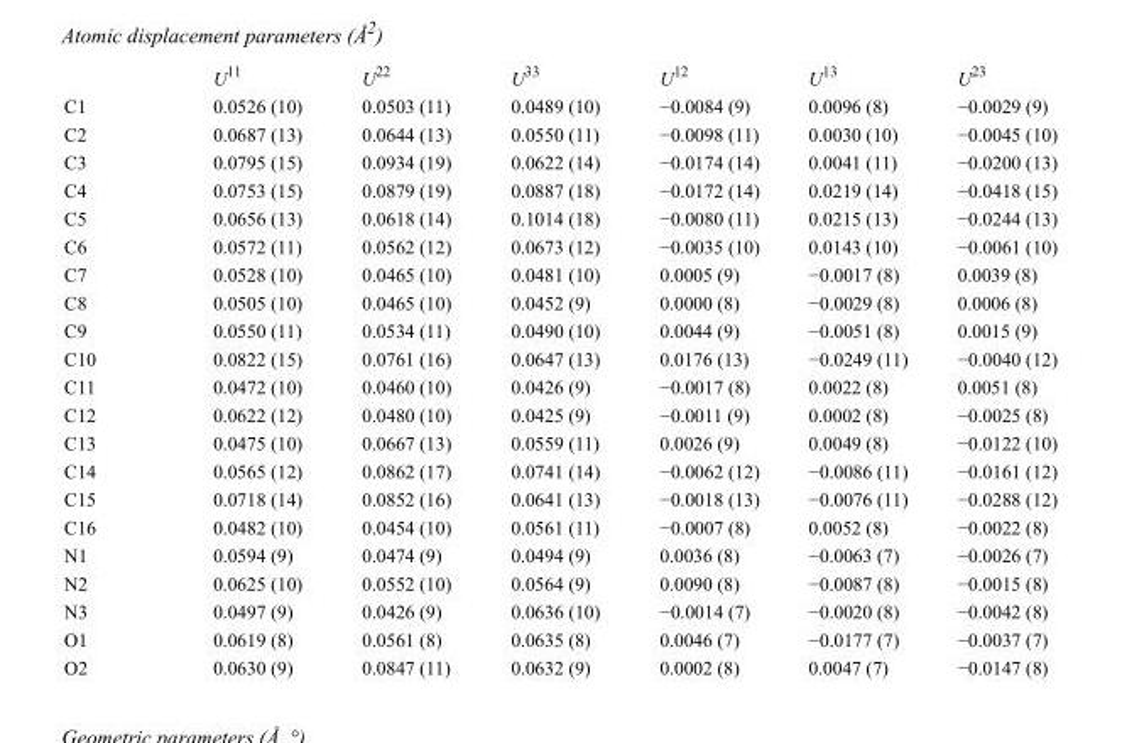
<table><thead><tr><td></td><td>U<sup>11</sup></td><td>U<sup>22</sup></td><td>U<sup>33</sup></td><td>U<sup>12</sup></td><td>U<sup>13</sup></td><td>U<sup>23</sup></td></tr></thead><tbody><tr><td>C1</td><td>0.0526 (10)</td><td>0.0503 (11)</td><td>0.0489 (10)</td><td>−0.0084 (9)</td><td>0.0096 (8)</td><td>−0.0029 (9)</td></tr><tr><td>C2</td><td>0.0687 (13)</td><td>0.0644 (13)</td><td>0.0550 (11)</td><td>−0.0098 (11)</td><td>0.0030 (10)</td><td>−0.0045 (10)</td></tr><tr><td>C3</td><td>0.0795 (15)</td><td>0.0934 (19)</td><td>0.0622 (14)</td><td>−0.0174 (14)</td><td>0.0041 (11)</td><td>−0.0200 (13)</td></tr><tr><td>C4</td><td>0.0753 (15)</td><td>0.0879 (19)</td><td>0.0887 (18)</td><td>−0.0172 (14)</td><td>0.0219 (14)</td><td>−0.0418 (15)</td></tr><tr><td>C5</td><td>0.0656 (13)</td><td>0.0618 (14)</td><td>0.1014 (18)</td><td>−0.0080 (11)</td><td>0.0215 (13)</td><td>−0.0244 (13)</td></tr><tr><td>C6</td><td>0.0572 (11)</td><td>0.0562 (12)</td><td>0.0673 (12)</td><td>−0.0035 (10)</td><td>0.0143 (10)</td><td>−0.0061 (10)</td></tr><tr><td>C7</td><td>0.0528 (10)</td><td>0.0465 (10)</td><td>0.0481 (10)</td><td>0.0005 (9)</td><td>−0.0017 (8)</td><td>0.0039 (8)</td></tr><tr><td>C8</td><td>0.0505 (10)</td><td>0.0465 (10)</td><td>0.0452 (9)</td><td>0.0000 (8)</td><td>−0.0029 (8)</td><td>0.0006 (8)</td></tr><tr><td>C9</td><td>0.0550 (11)</td><td>0.0534 (11)</td><td>0.0490 (10)</td><td>0.0044 (9)</td><td>−0.0051 (8)</td><td>0.0015 (9)</td></tr><tr><td>C10</td><td>0.0822 (15)</td><td>0.0761 (16)</td><td>0.0647 (13)</td><td>0.0176 (13)</td><td>−0.0249 (11)</td><td>−0.0040 (12)</td></tr><tr><td>C11</td><td>0.0472 (10)</td><td>0.0460 (10)</td><td>0.0426 (9)</td><td>−0.0017 (8)</td><td>0.0022 (8)</td><td>0.0051 (8)</td></tr><tr><td>C12</td><td>0.0622 (12)</td><td>0.0480 (10)</td><td>0.0425 (9)</td><td>−0.0011 (9)</td><td>0.0002 (8)</td><td>−0.0025 (8)</td></tr><tr><td>C13</td><td>0.0475 (10)</td><td>0.0667 (13)</td><td>0.0559 (11)</td><td>0.0026 (9)</td><td>0.0049 (8)</td><td>−0.0122 (10)</td></tr><tr><td>C14</td><td>0.0565 (12)</td><td>0.0862 (17)</td><td>0.0741 (14)</td><td>−0.0062 (12)</td><td>−0.0086 (11)</td><td>−0.0161 (12)</td></tr><tr><td>C15</td><td>0.0718 (14)</td><td>0.0852 (16)</td><td>0.0641 (13)</td><td>−0.0018 (13)</td><td>−0.0076 (11)</td><td>−0.0288 (12)</td></tr><tr><td>C16</td><td>0.0482 (10)</td><td>0.0454 (10)</td><td>0.0561 (11)</td><td>−0.0007 (8)</td><td>0.0052 (8)</td><td>−0.0022 (8)</td></tr><tr><td>N1</td><td>0.0594 (9)</td><td>0.0474 (9)</td><td>0.0494 (9)</td><td>0.0036 (8)</td><td>−0.0063 (7)</td><td>−0.0026 (7)</td></tr><tr><td>N2</td><td>0.0625 (10)</td><td>0.0552 (10)</td><td>0.0564 (9)</td><td>0.0090 (8)</td><td>−0.0087 (8)</td><td>−0.0015 (8)</td></tr><tr><td>N3</td><td>0.0497 (9)</td><td>0.0426 (9)</td><td>0.0636 (10)</td><td>−0.0014 (7)</td><td>−0.0020 (8)</td><td>−0.0042 (8)</td></tr><tr><td>O1</td><td>0.0619 (8)</td><td>0.0561 (8)</td><td>0.0635 (8)</td><td>0.0046 (7)</td><td>−0.0177 (7)</td><td>−0.0037 (7)</td></tr><tr><td>O2</td><td>0.0630 (9)</td><td>0.0847 (11)</td><td>0.0632 (9)</td><td>0.0002 (8)</td><td>0.0047 (7)</td><td>−0.0147 (8)</td></tr></tbody></table>